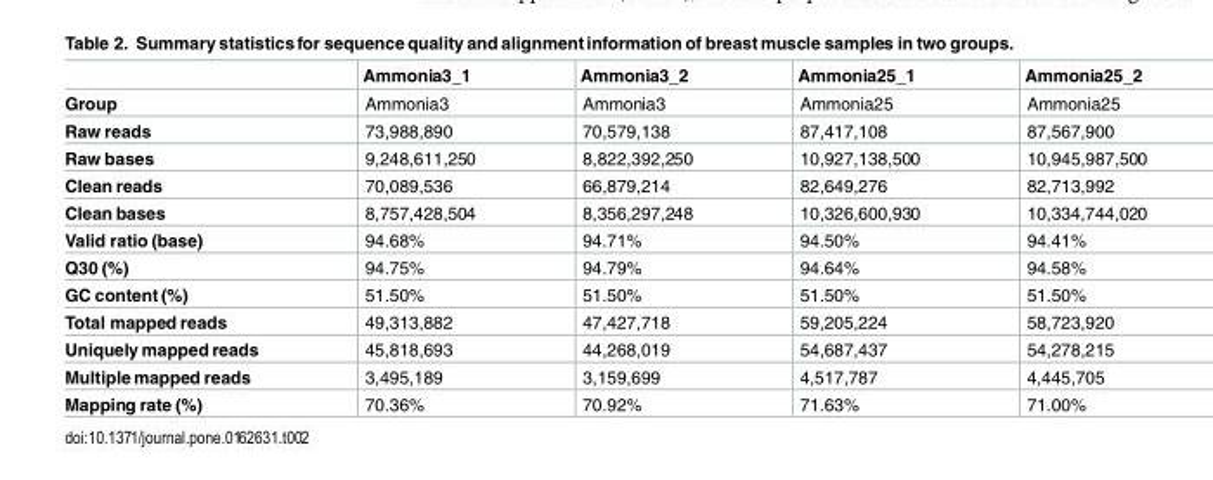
<table><thead><tr><td></td><td>Ammonia3_1</td><td>Ammonia3_2</td><td>Ammonia25_1</td><td>Ammonia25_2</td></tr></thead><tbody><tr><td>Group</td><td>Ammonia3</td><td>Ammonia3</td><td>Ammonia25</td><td>Ammonia25</td></tr><tr><td>Raw reads</td><td>73,988,890</td><td>70,579,138</td><td>87,417,108</td><td>87,567,900</td></tr><tr><td>Raw bases</td><td>9,248,611,250</td><td>8,822,392,250</td><td>10,927,138,500</td><td>10,945,987,500</td></tr><tr><td>Clean reads</td><td>70,089,536</td><td>66,879,214</td><td>82,649,276</td><td>82,713,992</td></tr><tr><td>Clean bases</td><td>8,757,428,504</td><td>8,356,297,248</td><td>10,326,600,930</td><td>10,334,744,020</td></tr><tr><td>Valid ratio (base)</td><td>94.68%</td><td>94.71%</td><td>94.50%</td><td>94.41%</td></tr><tr><td>Q30 (%)</td><td>94.75%</td><td>94.79%</td><td>94.64%</td><td>94.58%</td></tr><tr><td>GC content (%)</td><td>51.50%</td><td>51.50%</td><td>51.50%</td><td>51.50%</td></tr><tr><td>Total mapped reads</td><td>49,313,882</td><td>47,427,718</td><td>59,205,224</td><td>58,723,920</td></tr><tr><td>Uniquely mapped reads</td><td>45,818,693</td><td>44,268,019</td><td>54,687,437</td><td>54,278,215</td></tr><tr><td>Multiple mapped reads</td><td>3,495,189</td><td>3,159,699</td><td>4,517,787</td><td>4,445,705</td></tr><tr><td>Mapping rate (%)</td><td>70.36%</td><td>70.92%</td><td>71.63%</td><td>71.00%</td></tr></tbody></table>